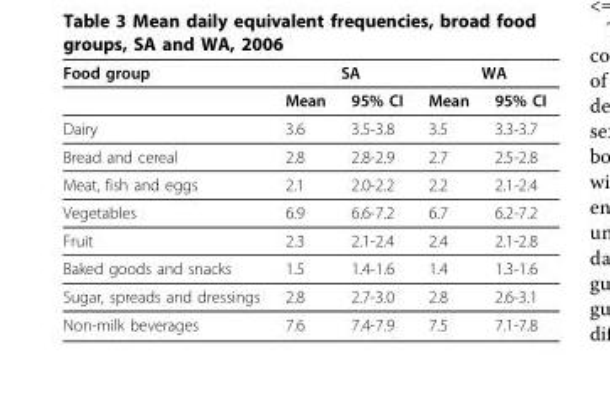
<table><thead><tr><td rowspan="2">Food group</td><td colspan="2">SA</td><td colspan="2">WA</td></tr><tr><td>Mean</td><td>95% CI</td><td>Mean</td><td>95% CI</td></tr></thead><tbody><tr><td>Dairy</td><td>3.6</td><td>3.5-3.8</td><td>3.5</td><td>3.3-3.7</td></tr><tr><td>Bread and cereal</td><td>2.8</td><td>2.8-2.9</td><td>2.7</td><td>2.5-2.8</td></tr><tr><td>Meat, fish and eggs</td><td>2.1</td><td>2.0-2.2</td><td>2.2</td><td>2.1-2.4</td></tr><tr><td>Vegetables</td><td>6.9</td><td>6.6-7.2</td><td>6.7</td><td>6.2-7.2</td></tr><tr><td>Fruit</td><td>2.3</td><td>2.1-2.4</td><td>2.4</td><td>2.1-2.8</td></tr><tr><td>Baked goods and snacks</td><td>1.5</td><td>1.4-1.6</td><td>1.4</td><td>1.3-1.6</td></tr><tr><td>Sugar, spreads and dressings</td><td>2.8</td><td>2.7-3.0</td><td>2.8</td><td>2.6-3.1</td></tr><tr><td>Non-milk beverages</td><td>7.6</td><td>7.4-7.9</td><td>7.5</td><td>7.1-7.8</td></tr></tbody></table>